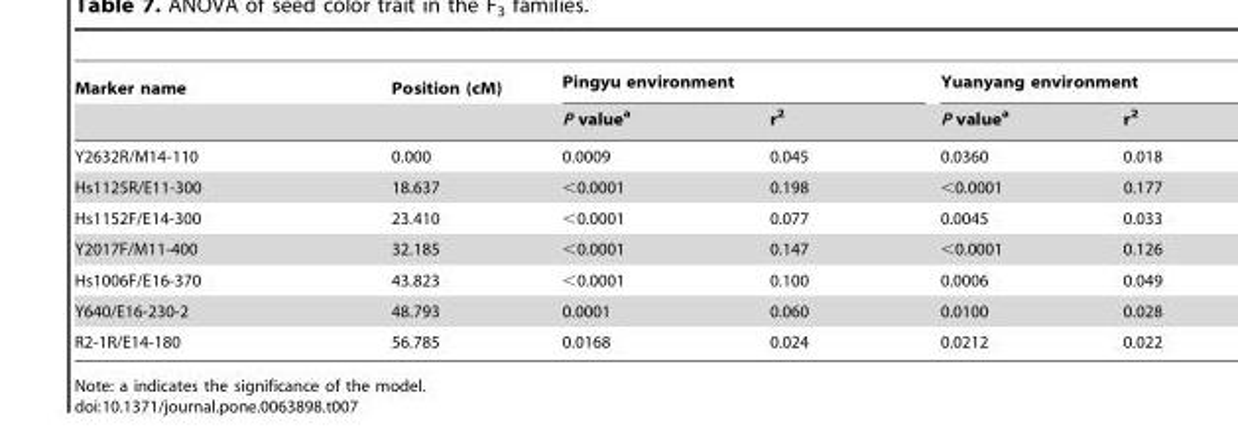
<table><thead><tr><td rowspan="2">Marker name</td><td rowspan="2">Position (cM)</td><td colspan="2">Pingyu environment</td><td colspan="2">Yuanyang environment</td></tr><tr><td>P value<sup>a</sup></td><td>r<sup>2</sup></td><td>P value<sup>a</sup></td><td>r<sup>2</sup></td></tr></thead><tbody><tr><td>Y2632R/M14-110</td><td>0.000</td><td>0.0009</td><td>0.045</td><td>0.0360</td><td>0.018</td></tr><tr><td>Hs1125R/E11-300</td><td>18.637</td><td>&lt;0.0001</td><td>0.198</td><td>&lt;0.0001</td><td>0.177</td></tr><tr><td>Hs1152F/E14-300</td><td>23.410</td><td>&lt;0.0001</td><td>0.077</td><td>0.0045</td><td>0.033</td></tr><tr><td>Y2017F/M11-400</td><td>32.185</td><td>&lt;0.0001</td><td>0.147</td><td>&lt;0.0001</td><td>0.126</td></tr><tr><td>Hs1006F/E16-370</td><td>43.823</td><td>&lt;0.0001</td><td>0.100</td><td>0.0006</td><td>0.049</td></tr><tr><td>Y640/E16-230-2</td><td>48.793</td><td>0.0001</td><td>0.060</td><td>0.0100</td><td>0.028</td></tr><tr><td>R2-1R/E14-180</td><td>56.785</td><td>0.0168</td><td>0.024</td><td>0.0212</td><td>0.022</td></tr></tbody></table>